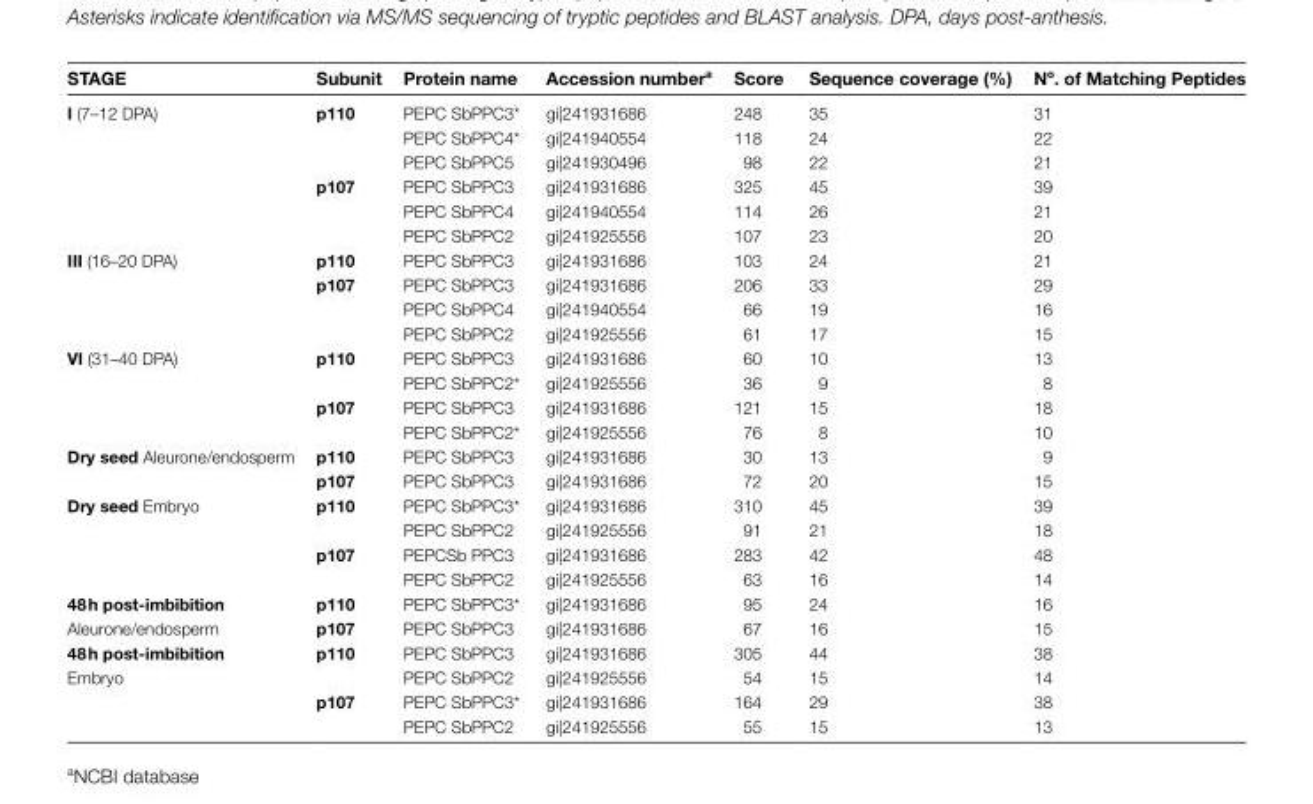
<table><thead><tr><td>STAGE</td><td>Subunit</td><td>Protein name</td><td>Accession number<sup>a</sup></td><td>Score</td><td>Sequence coverage (%)</td><td>N<sup>o</sup>. of Matching Peptides</td></tr></thead><tbody><tr><td rowspan="6">I (7–12 DPA)</td><td rowspan="3">p110</td><td>PEPC SbPPC3*</td><td>gi|241931686</td><td>248</td><td>35</td><td>31</td></tr><tr><td>PEPC SbPPC4*</td><td>gi|241940554</td><td>118</td><td>24</td><td>22</td></tr><tr><td>PEPC SbPPC5</td><td>gi|241930496</td><td>98</td><td>22</td><td>21</td></tr><tr><td rowspan="3">p107</td><td>PEPC SbPPC3</td><td>gi|241931686</td><td>325</td><td>45</td><td>39</td></tr><tr><td>PEPC SbPPC4</td><td>gi|241940554</td><td>114</td><td>26</td><td>21</td></tr><tr><td>PEPC SbPPC2</td><td>gi|241925556</td><td>107</td><td>23</td><td>20</td></tr><tr><td rowspan="4">III (16–20 DPA)</td><td>p110</td><td>PEPC SbPPC3</td><td>gi|241931686</td><td>103</td><td>24</td><td>21</td></tr><tr><td rowspan="3">p107</td><td>PEPC SbPPC3</td><td>gi|241931686</td><td>206</td><td>33</td><td>29</td></tr><tr><td>PEPC SbPPC4</td><td>gi|241940554</td><td>66</td><td>19</td><td>16</td></tr><tr><td>PEPC SbPPC2</td><td>gi|241925556</td><td>61</td><td>17</td><td>15</td></tr><tr><td rowspan="4">VI (31–40 DPA)</td><td rowspan="2">p110</td><td>PEPC SbPPC3</td><td>gi|241931686</td><td>60</td><td>10</td><td>13</td></tr><tr><td>PEPC SbPPC2*</td><td>gi|241925556</td><td>36</td><td>9</td><td>8</td></tr><tr><td rowspan="2">p107</td><td>PEPC SbPPC3</td><td>gi|241931686</td><td>121</td><td>15</td><td>18</td></tr><tr><td>PEPC SbPPC2*</td><td>gi|241925556</td><td>76</td><td>8</td><td>10</td></tr><tr><td rowspan="2">Dry seed Aleurone/endosperm</td><td>p110</td><td>PEPC SbPPC3</td><td>gi|241931686</td><td>30</td><td>13</td><td>9</td></tr><tr><td>p107</td><td>PEPC SbPPC3</td><td>gi|241931686</td><td>72</td><td>20</td><td>15</td></tr><tr><td rowspan="4">Dry seed Embryo</td><td rowspan="2">p110</td><td>PEPC SbPPC3*</td><td>gi|241931686</td><td>310</td><td>45</td><td>39</td></tr><tr><td>PEPC SbPPC2</td><td>gi|241925556</td><td>91</td><td>21</td><td>18</td></tr><tr><td rowspan="2">p107</td><td>PEPCSb PPC3</td><td>gi|241931686</td><td>283</td><td>42</td><td>48</td></tr><tr><td>PEPC SbPPC2</td><td>gi|241925556</td><td>63</td><td>16</td><td>14</td></tr><tr><td rowspan="2">48 h post-imbibition Aleurone/endosperm</td><td>p110</td><td>PEPC SbPPC3*</td><td>gi|241931686</td><td>95</td><td>24</td><td>16</td></tr><tr><td>p107</td><td>PEPC SbPPC3</td><td>gi|241931686</td><td>67</td><td>16</td><td>15</td></tr><tr><td rowspan="4">48 h post-imbibition Embryo</td><td rowspan="2">p110</td><td>PEPC SbPPC3</td><td>gi|241931686</td><td>305</td><td>44</td><td>38</td></tr><tr><td>PEPC SbPPC2</td><td>gi|241925556</td><td>54</td><td>15</td><td>14</td></tr><tr><td rowspan="2">p107</td><td>PEPC SbPPC3*</td><td>gi|241931686</td><td>164</td><td>29</td><td>38</td></tr><tr><td>PEPC SbPPC2</td><td>gi|241925556</td><td>55</td><td>15</td><td>13</td></tr></tbody></table>